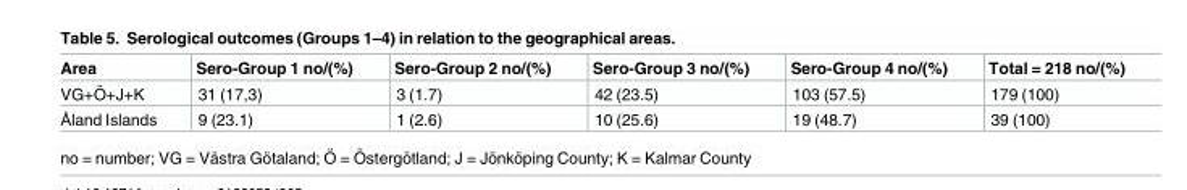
<table><thead><tr><td>Area</td><td>Sero-Group 1 no/(%)</td><td>Sero-Group 2 no/(%)</td><td>Sero-Group 3 no/(%)</td><td>Sero-Group 4 no/(%)</td><td>Total = 218 no/(%)</td></tr></thead><tbody><tr><td>VG+O¨ +J+K</td><td>31 (17,3)</td><td>3 (1.7)</td><td>42 (23.5)</td><td>103 (57.5)</td><td>179 (100)</td></tr><tr><td>Åland Islands</td><td>9 (23.1)</td><td>1 (2.6)</td><td>10 (25.6)</td><td>19 (48.7)</td><td>39 (100)</td></tr></tbody></table>